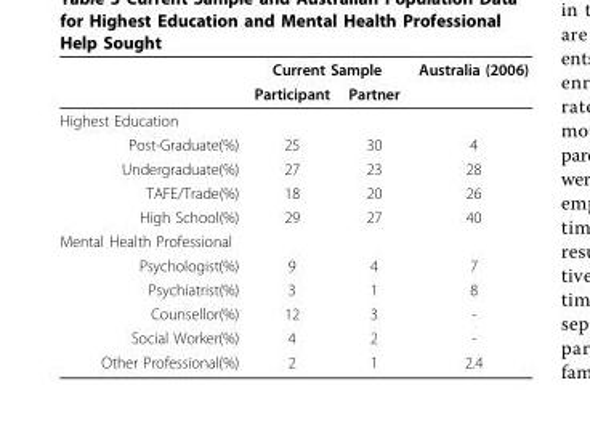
<table><thead><tr><td rowspan="2"></td><td colspan="2">Current Sample</td><td rowspan="2">Australia (2006)</td></tr><tr><td>Participant</td><td>Partner</td></tr></thead><tbody><tr><td colspan="4">Highest Education</td></tr><tr><td>Post-Graduate(%)</td><td>25</td><td>30</td><td>4</td></tr><tr><td>Undergraduate(%)</td><td>27</td><td>23</td><td>28</td></tr><tr><td>TAFE/Trade(%)</td><td>18</td><td>20</td><td>26</td></tr><tr><td>High School(%)</td><td>29</td><td>27</td><td>40</td></tr><tr><td colspan="4">Mental Health Professional</td></tr><tr><td>Psychologist(%)</td><td>9</td><td>4</td><td>7</td></tr><tr><td>Psychiatrist(%)</td><td>3</td><td>1</td><td>8</td></tr><tr><td>Counsellor(%)</td><td>12</td><td>3</td><td>-</td></tr><tr><td>Social Worker(%)</td><td>4</td><td>2</td><td>-</td></tr><tr><td>Other Professional(%)</td><td>2</td><td>1</td><td>2.4</td></tr></tbody></table>